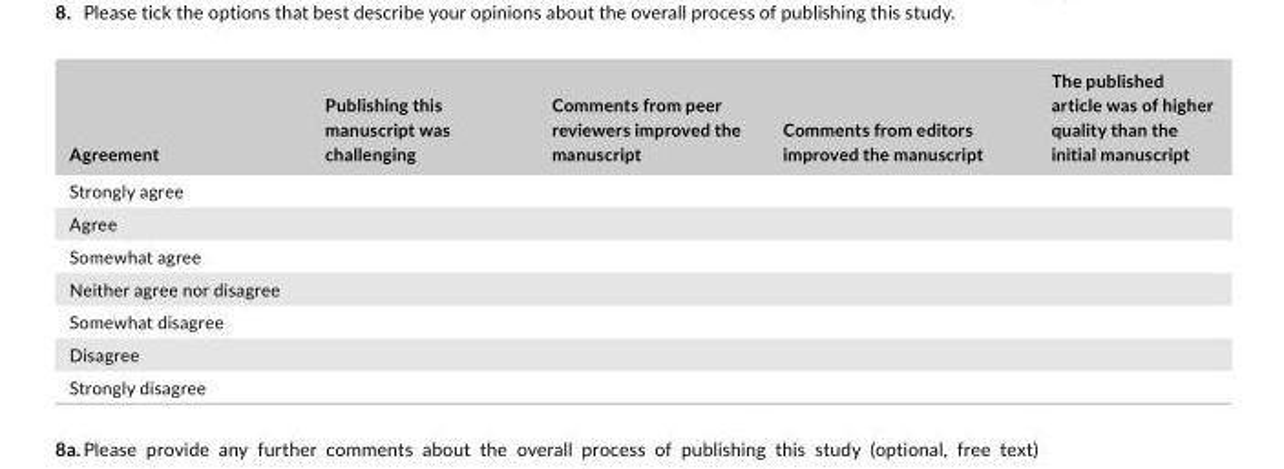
<table><thead><tr><td>Agreement</td><td>Publishing this manuscript was challenging</td><td>Comments from peer reviewers improved the manuscript</td><td>Comments from editors improved the manuscript</td><td>The published article was of higher quality than the initial manuscript</td></tr></thead><tbody><tr><td colspan="5">Strongly agree</td></tr><tr><td colspan="5">Agree</td></tr><tr><td colspan="5">Somewhat agree</td></tr><tr><td colspan="5">Neither agree nor disagree</td></tr><tr><td colspan="5">Somewhat disagree</td></tr><tr><td colspan="5">Disagree</td></tr><tr><td>Strongly disagree</td><td></td><td></td><td></td><td></td></tr></tbody></table>